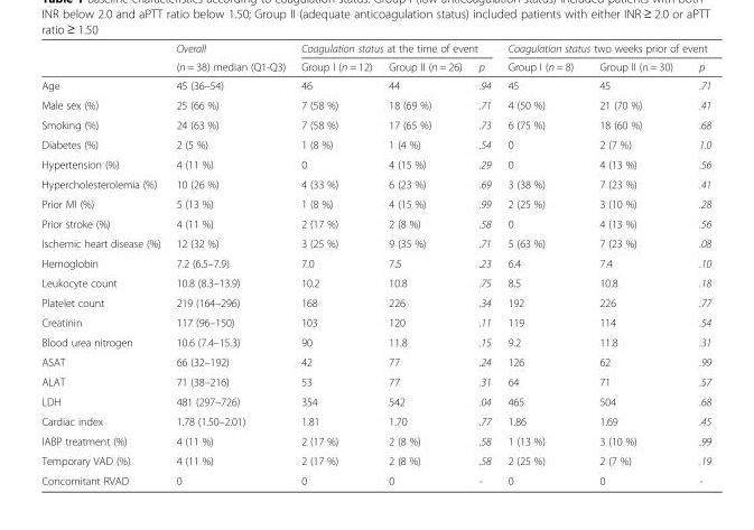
<table><thead><tr><td rowspan="2"></td><td rowspan="2">Overall (n = 38) median (Q1-Q3)</td><td colspan="3">Coagulation status at the time of event</td><td colspan="3">Coagulation status two weeks prior of event</td></tr><tr><td>Group I (n = 12)</td><td>Group II (n = 26)</td><td>p</td><td>Group I (n = 8)</td><td>Group II (n = 30)</td><td>p</td></tr></thead><tbody><tr><td>Age</td><td>45 (36–54)</td><td>46</td><td>44</td><td>.94</td><td>45</td><td>45</td><td>.71</td></tr><tr><td>Male sex (%)</td><td>25 (66 %)</td><td>7 (58 %)</td><td>18 (69 %)</td><td>.71</td><td>4 (50 %)</td><td>21 (70 %)</td><td>.41</td></tr><tr><td>Smoking (%)</td><td>24 (63 %)</td><td>7 (58 %)</td><td>17 (65 %)</td><td>.73</td><td>6 (75 %)</td><td>18 (60 %)</td><td>.68</td></tr><tr><td>Diabetes (%)</td><td>2 (5 %)</td><td>1 (8 %)</td><td>1 (4 %)</td><td>.54</td><td>0</td><td>2 (7 %)</td><td>1.0</td></tr><tr><td>Hypertension (%)</td><td>4 (11 %)</td><td>0</td><td>4 (15 %)</td><td>.29</td><td>0</td><td>4 (13 %)</td><td>.56</td></tr><tr><td>Hypercholesterolemia (%)</td><td>10 (26 %)</td><td>4 (33 %)</td><td>6 (23 %)</td><td>.69</td><td>3 (38 %)</td><td>7 (23 %)</td><td>.41</td></tr><tr><td>Prior MI (%)</td><td>5 (13 %)</td><td>1 (8 %)</td><td>4 (15 %)</td><td>.99</td><td>2 (25 %)</td><td>3 (10 %)</td><td>.28</td></tr><tr><td>Prior stroke (%)</td><td>4 (11 %)</td><td>2 (17 %)</td><td>2 (8 %)</td><td>.58</td><td>0</td><td>4 (13 %)</td><td>.56</td></tr><tr><td>Ischemic heart disease (%)</td><td>12 (32 %)</td><td>3 (25 %)</td><td>9 (35 %)</td><td>.71</td><td>5 (63 %)</td><td>7 (23 %)</td><td>.08</td></tr><tr><td>Hemoglobin</td><td>7.2 (6.5–7.9)</td><td>7.0</td><td>7.5</td><td>.23</td><td>6.4</td><td>7.4</td><td>.10</td></tr><tr><td>Leukocyte count</td><td>10.8 (8.3–13.9)</td><td>10.2</td><td>10.8</td><td>.75</td><td>8.5</td><td>10.8</td><td>.18</td></tr><tr><td>Platelet count</td><td>219 (164–296)</td><td>168</td><td>226</td><td>.34</td><td>192</td><td>226</td><td>.77</td></tr><tr><td>Creatinin</td><td>117 (96–150)</td><td>103</td><td>120</td><td>.11</td><td>119</td><td>114</td><td>.54</td></tr><tr><td>Blood urea nitrogen</td><td>10.6 (7.4–15.3)</td><td>90</td><td>11.8</td><td>.15</td><td>9.2</td><td>11.8</td><td>.31</td></tr><tr><td>ASAT</td><td>66 (32–192)</td><td>42</td><td>77</td><td>.24</td><td>126</td><td>62</td><td>.99</td></tr><tr><td>ALAT</td><td>71 (38–216)</td><td>53</td><td>77</td><td>.31</td><td>64</td><td>71</td><td>.57</td></tr><tr><td>LDH</td><td>481 (297–726)</td><td>354</td><td>542</td><td>.04</td><td>465</td><td>504</td><td>.68</td></tr><tr><td>Cardiac index</td><td>1.78 (1.50–2.01)</td><td>1.81</td><td>1.70</td><td>.77</td><td>1.86</td><td>1.69</td><td>.45</td></tr><tr><td>IABP treatment (%)</td><td>4 (11 %)</td><td>2 (17 %)</td><td>2 (8 %)</td><td>.58</td><td>1 (13 %)</td><td>3 (10 %)</td><td>.99</td></tr><tr><td>Temporary VAD (%)</td><td>4 (11 %)</td><td>2 (17 %)</td><td>2 (8 %)</td><td>.58</td><td>2 (25 %)</td><td>2 (7 %)</td><td>.19</td></tr><tr><td>Concomitant RVAD</td><td>0</td><td>0</td><td>0</td><td>-</td><td>0</td><td>0</td><td>-</td></tr></tbody></table>